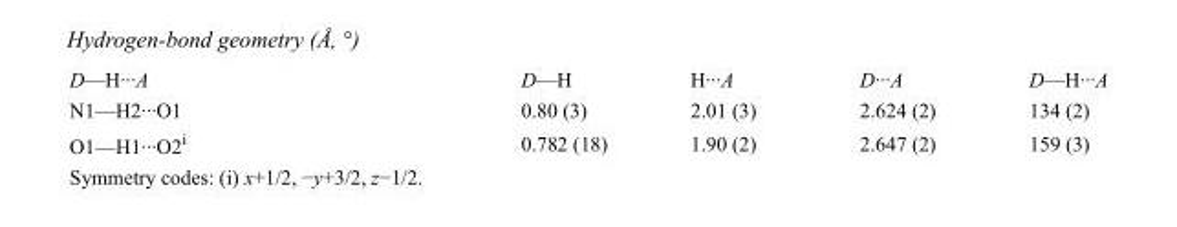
<table><tbody><tr><td>D—H···A</td><td>D—H</td><td>H···A</td><td>D···A</td><td>D—H···A</td></tr><tr><td>N1—H2···O1</td><td>0.80 (3)</td><td>2.01 (3)</td><td>2.624 (2)</td><td>134 (2)</td></tr><tr><td>O1—H1···O2<sup>i</sup></td><td>0.782 (18)</td><td>1.90 (2)</td><td>2.647 (2)</td><td>159 (3)</td></tr></tbody></table>